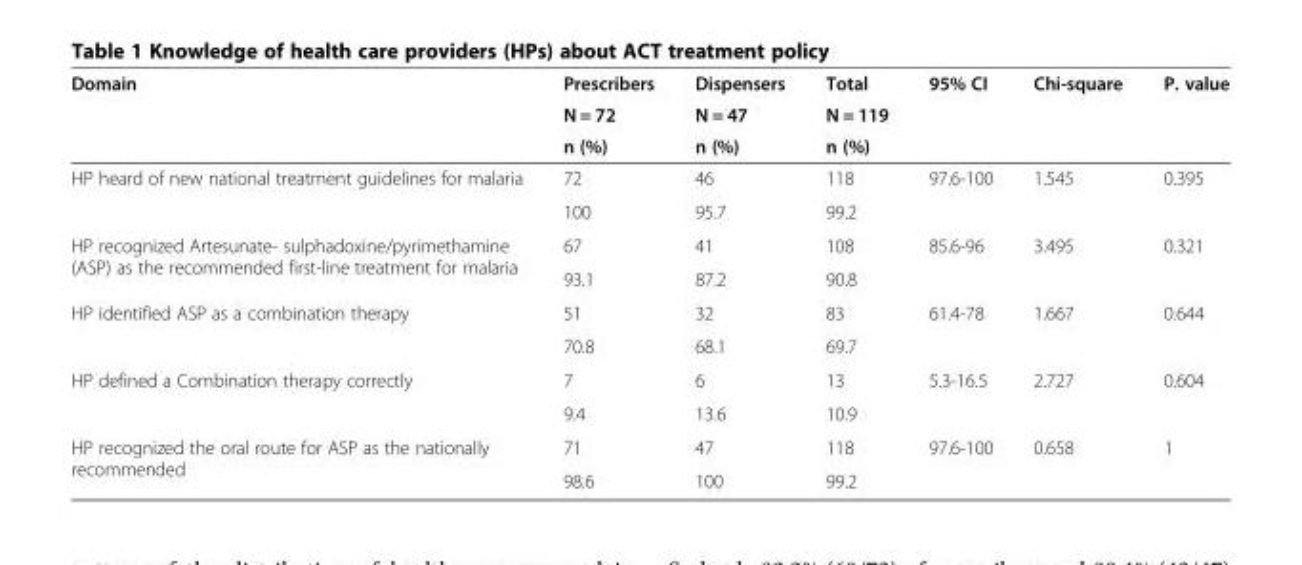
<table><thead><tr><td rowspan="3">Domain</td><td rowspan="3">Prescribers N = 72 n (%)</td><td rowspan="3">Dispensers N = 47 n (%)</td><td rowspan="3">Total N = 119 n (%)</td><td rowspan="3">95% CI</td><td rowspan="3">Chi-square</td><td rowspan="3">P. value</td></tr><tr></tr><tr></tr></thead><tbody><tr><td rowspan="2">HP heard of new national treatment guidelines for malaria</td><td>72</td><td>46</td><td>118</td><td rowspan="2">97.6-100</td><td rowspan="2">1.545</td><td rowspan="2">0.395</td></tr><tr><td>100</td><td>95.7</td><td>99.2</td></tr><tr><td rowspan="2">HP recognized Artesunate- sulphadoxine/pyrimethamine (ASP) as the recommended first-line treatment for malaria</td><td>67</td><td>41</td><td>108</td><td rowspan="2">85.6-96</td><td rowspan="2">3.495</td><td rowspan="2">0.321</td></tr><tr><td>93.1</td><td>87.2</td><td>90.8</td></tr><tr><td rowspan="2">HP identified ASP as a combination therapy</td><td>51</td><td>32</td><td>83</td><td rowspan="2">61.4-78</td><td rowspan="2">1.667</td><td rowspan="2">0.644</td></tr><tr><td>70.8</td><td>68.1</td><td>69.7</td></tr><tr><td rowspan="2">HP defined a Combination therapy correctly</td><td>7</td><td>6</td><td>13</td><td rowspan="2">5.3-16.5</td><td rowspan="2">2.727</td><td rowspan="2">0.604</td></tr><tr><td>9.4</td><td>13.6</td><td>10.9</td></tr><tr><td rowspan="2">HP recognized the oral route for ASP as the nationally recommended</td><td>71</td><td>47</td><td>118</td><td rowspan="2">97.6-100</td><td rowspan="2">0.658</td><td rowspan="2">1</td></tr><tr><td>98.6</td><td>100</td><td>99.2</td></tr></tbody></table>